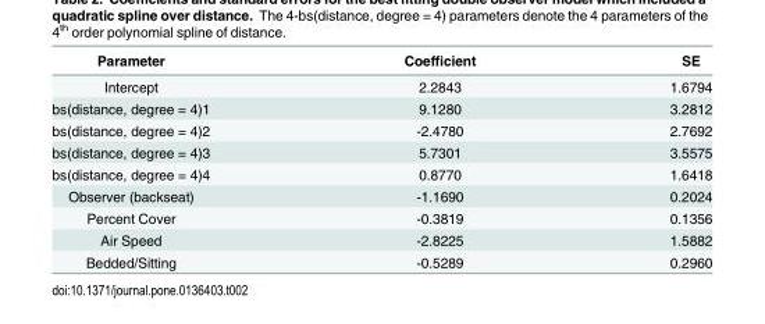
<table><thead><tr><td>Parameter</td><td>Coefficient</td><td>SE</td></tr></thead><tbody><tr><td>Intercept</td><td>2.2843</td><td>1.6794</td></tr><tr><td>bs(distance, degree = 4)1</td><td>9.1280</td><td>3.2812</td></tr><tr><td>bs(distance, degree = 4)2</td><td>-2.4780</td><td>2.7692</td></tr><tr><td>bs(distance, degree = 4)3</td><td>5.7301</td><td>3.5575</td></tr><tr><td>bs(distance, degree = 4)4</td><td>0.8770</td><td>1.6418</td></tr><tr><td>Observer (backseat)</td><td>-1.1690</td><td>0.2024</td></tr><tr><td>Percent Cover</td><td>-0.3819</td><td>0.1356</td></tr><tr><td>Air Speed</td><td>-2.8225</td><td>1.5882</td></tr><tr><td>Bedded/Sitting</td><td>-0.5289</td><td>0.2960</td></tr></tbody></table>